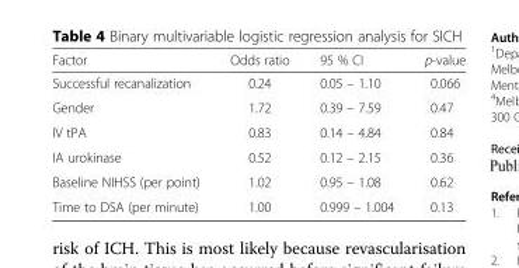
<table><thead><tr><td>Factor</td><td>Odds ratio</td><td>95 % CI</td><td>p-value</td></tr></thead><tbody><tr><td>Successful recanalization</td><td>0.24</td><td>0.05 – 1.10</td><td>0.066</td></tr><tr><td>Gender</td><td>1.72</td><td>0.39 – 7.59</td><td>0.47</td></tr><tr><td>IV tPA</td><td>0.83</td><td>0.14 – 4.84</td><td>0.84</td></tr><tr><td>IA urokinase</td><td>0.52</td><td>0.12 – 2.15</td><td>0.36</td></tr><tr><td>Baseline NIHSS (per point)</td><td>1.02</td><td>0.95 – 1.08</td><td>0.62</td></tr><tr><td>Time to DSA (per minute)</td><td>1.00</td><td>0.999 – 1.004</td><td>0.13</td></tr></tbody></table>